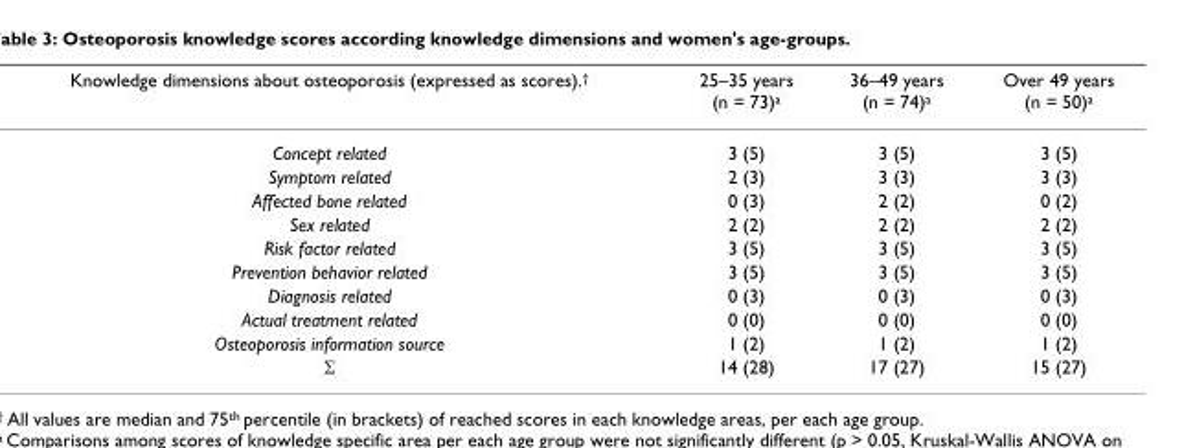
<table><thead><tr><td>Knowledge dimensions about osteoporosis (expressed as scores).†</td><td>25–35 years (n = 73)a</td><td>36–49 years (n = 74)a</td><td>Over 49 years (n = 50)a</td></tr></thead><tbody><tr><td>Concept related</td><td>3 (5)</td><td>3 (5)</td><td>3 (5)</td></tr><tr><td>Symptom related</td><td>2 (3)</td><td>3 (3)</td><td>3 (3)</td></tr><tr><td>Affected bone related</td><td>0 (3)</td><td>2 (2)</td><td>0 (2)</td></tr><tr><td>Sex related</td><td>2 (2)</td><td>2 (2)</td><td>2 (2)</td></tr><tr><td>Risk factor related</td><td>3 (5)</td><td>3 (5)</td><td>3 (5)</td></tr><tr><td>Prevention behavior related</td><td>3 (5)</td><td>3 (5)</td><td>3 (5)</td></tr><tr><td>Diagnosis related</td><td>0 (3)</td><td>0 (3)</td><td>0 (3)</td></tr><tr><td>Actual treatment related</td><td>0 (0)</td><td>0 (0)</td><td>0 (0)</td></tr><tr><td>Osteoporosis information source</td><td>1 (2)</td><td>1 (2)</td><td>1 (2)</td></tr><tr><td>Σ</td><td>14 (28)</td><td>17 (27)</td><td>15 (27)</td></tr></tbody></table>